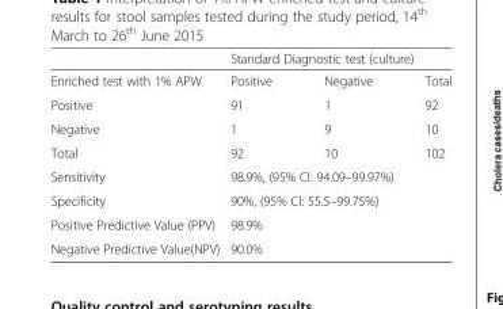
<table><thead><tr><td rowspan="2">Enriched test with 1% APW</td><td colspan="2">Standard Diagnostic test (culture)</td><td rowspan="2">Total</td></tr><tr><td>Positive</td><td>Negative</td></tr></thead><tbody><tr><td>Positive</td><td>91</td><td>1</td><td>92</td></tr><tr><td>Negative</td><td>1</td><td>9</td><td>10</td></tr><tr><td>Total</td><td>92</td><td>10</td><td>102</td></tr><tr><td>Sensitivity</td><td colspan="3">98.9%, (95% CI: 94.09–99.97%)</td></tr><tr><td>Specificity</td><td colspan="3">90%, (95% CI: 55.5–99.75%)</td></tr><tr><td>Positive Predictive Value (PPV)</td><td colspan="3">98.9%</td></tr><tr><td>Negative Predictive Value(NPV)</td><td colspan="3">90.0%</td></tr></tbody></table>